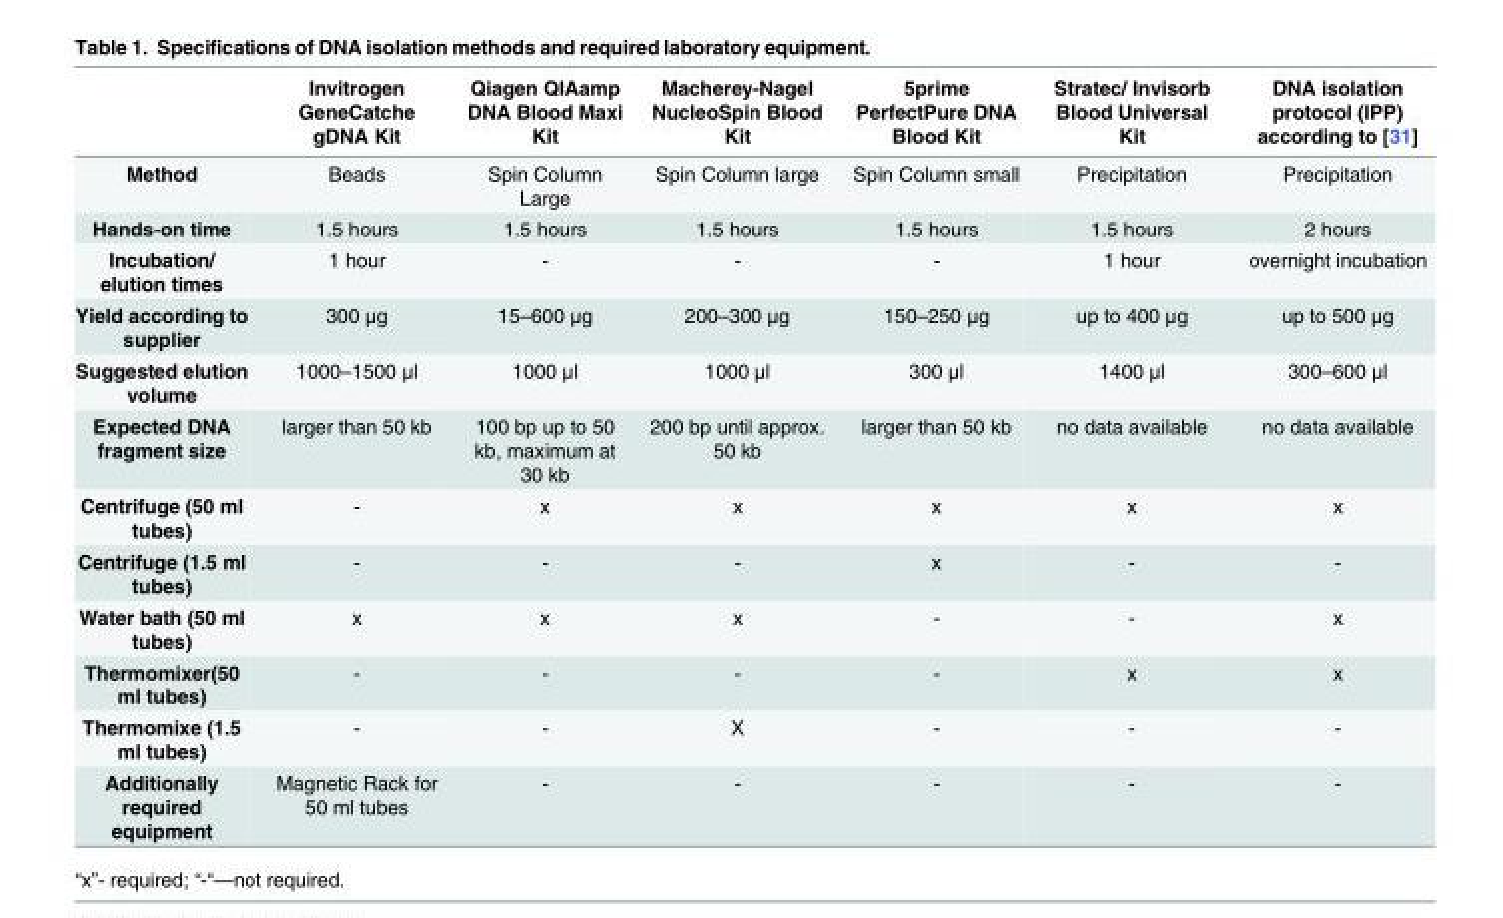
<table><thead><tr><td></td><td>Invitrogen GeneCatche gDNA Kit</td><td>Qiagen QIAamp DNA Blood Maxi Kit</td><td>Macherey-Nagel NucleoSpin Blood Kit</td><td>5prime PerfectPure DNA Blood Kit</td><td>Stratec/ Invisorb Blood Universal Kit</td><td>DNA isolation protocol (IPP) according to [31]</td></tr></thead><tbody><tr><td>Method</td><td>Beads</td><td>Spin Column Large</td><td>Spin Column large</td><td>Spin Column small</td><td>Precipitation</td><td>Precipitation</td></tr><tr><td>Hands-on time</td><td>1.5 hours</td><td>1.5 hours</td><td>1.5 hours</td><td>1.5 hours</td><td>1.5 hours</td><td>2 hours</td></tr><tr><td>Incubation/ elution times</td><td>1 hour</td><td>-</td><td>-</td><td>-</td><td>1 hour</td><td>overnight incubation</td></tr><tr><td>Yield according to supplier</td><td>300 μg</td><td>15–600 μg</td><td>200–300 μg</td><td>150–250 μg</td><td>up to 400 μg</td><td>up to 500 μg</td></tr><tr><td>Suggested elution volume</td><td>1000–1500 μl</td><td>1000 μl</td><td>1000 μl</td><td>300 μl</td><td>1400 μl</td><td>300–600 μl</td></tr><tr><td>Expected DNA fragment size</td><td>larger than 50 kb</td><td>100 bp up to 50 kb, maximum at 30 kb</td><td>200 bp until approx. 50 kb</td><td>larger than 50 kb</td><td>no data available</td><td>no data available</td></tr><tr><td>Centrifuge (50 ml tubes)</td><td>-</td><td>x</td><td>x</td><td>x</td><td>x</td><td>x</td></tr><tr><td>Centrifuge (1.5 ml tubes)</td><td>-</td><td>-</td><td>-</td><td>x</td><td>-</td><td>-</td></tr><tr><td>Water bath (50 ml tubes)</td><td>x</td><td>x</td><td>x</td><td>-</td><td>-</td><td>x</td></tr><tr><td>Thermomixer(50 ml tubes)</td><td>-</td><td>-</td><td>-</td><td>-</td><td>x</td><td>x</td></tr><tr><td>Thermomixe (1.5 ml tubes)</td><td>-</td><td>-</td><td>X</td><td>-</td><td>-</td><td>-</td></tr><tr><td>Additionally required equipment</td><td>Magnetic Rack for 50 ml tubes</td><td>-</td><td>-</td><td>-</td><td>-</td><td>-</td></tr></tbody></table>